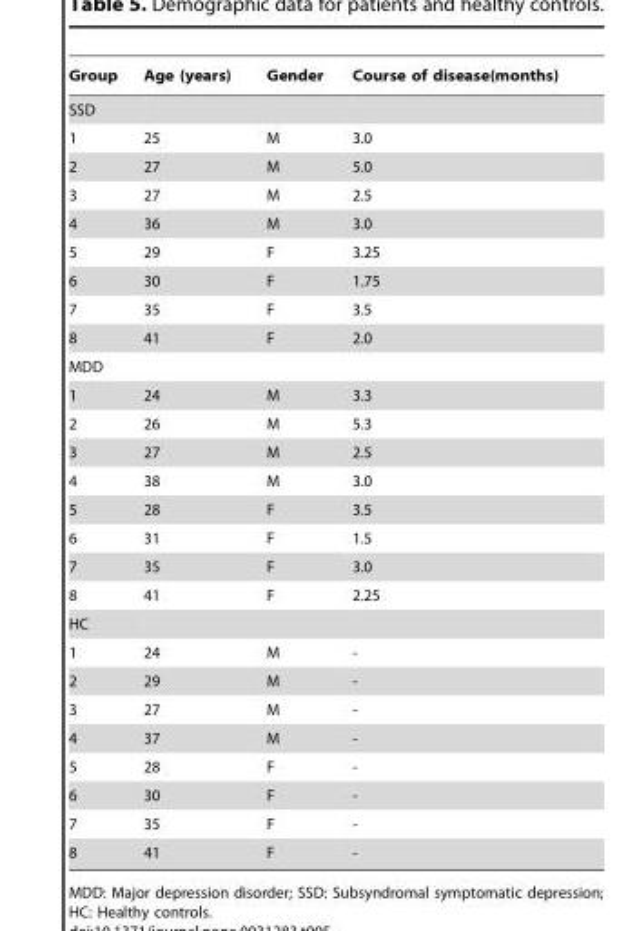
<table><thead><tr><td>Group</td><td>Age (years)</td><td>Gender</td><td>Course of disease(months)</td></tr></thead><tbody><tr><td colspan="4">SSD</td></tr><tr><td>1</td><td>25</td><td>M</td><td>3.0</td></tr><tr><td>2</td><td>27</td><td>M</td><td>5.0</td></tr><tr><td>3</td><td>27</td><td>M</td><td>2.5</td></tr><tr><td>4</td><td>36</td><td>M</td><td>3.0</td></tr><tr><td>5</td><td>29</td><td>F</td><td>3.25</td></tr><tr><td>6</td><td>30</td><td>F</td><td>1.75</td></tr><tr><td>7</td><td>35</td><td>F</td><td>3.5</td></tr><tr><td>8</td><td>41</td><td>F</td><td>2.0</td></tr><tr><td colspan="4">MDD</td></tr><tr><td>1</td><td>24</td><td>M</td><td>3.3</td></tr><tr><td>2</td><td>26</td><td>M</td><td>5.3</td></tr><tr><td>3</td><td>27</td><td>M</td><td>2.5</td></tr><tr><td>4</td><td>38</td><td>M</td><td>3.0</td></tr><tr><td>5</td><td>28</td><td>F</td><td>3.5</td></tr><tr><td>6</td><td>31</td><td>F</td><td>1.5</td></tr><tr><td>7</td><td>35</td><td>F</td><td>3.0</td></tr><tr><td>8</td><td>41</td><td>F</td><td>2.25</td></tr><tr><td colspan="4">HC</td></tr><tr><td>1</td><td>24</td><td>M</td><td>-</td></tr><tr><td>2</td><td>29</td><td>M</td><td>-</td></tr><tr><td>3</td><td>27</td><td>M</td><td>-</td></tr><tr><td>4</td><td>37</td><td>M</td><td>-</td></tr><tr><td>5</td><td>28</td><td>F</td><td>-</td></tr><tr><td>6</td><td>30</td><td>F</td><td>-</td></tr><tr><td>7</td><td>35</td><td>F</td><td>-</td></tr><tr><td>8</td><td>41</td><td>F</td><td>-</td></tr></tbody></table>